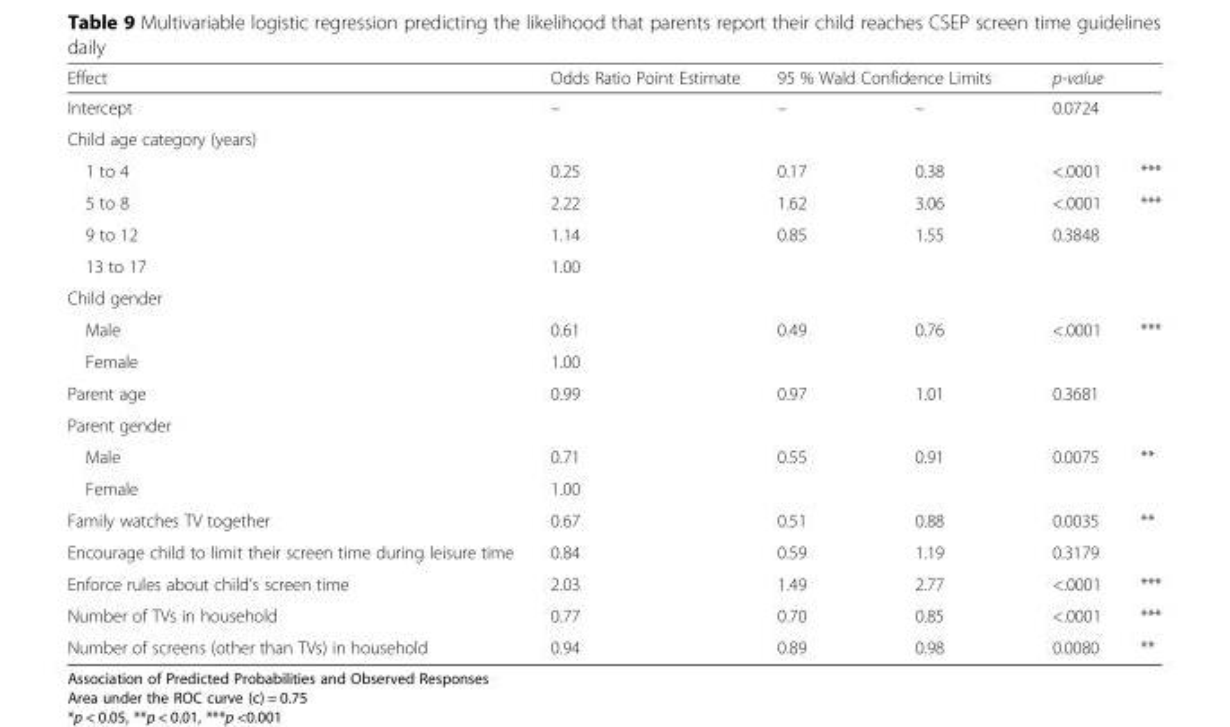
<table><thead><tr><td rowspan="2">Effect Intercept</td><td rowspan="2">Odds Ratio Point Estimate –</td><td colspan="2">95 % Wald Confidence Limits</td><td rowspan="2">p-value 0.0724</td><td rowspan="2"></td></tr><tr><td>–</td><td>–</td></tr></thead><tbody><tr><td colspan="6">Child age category (years)</td></tr><tr><td>1 to 4</td><td>0.25</td><td>0.17</td><td>0.38</td><td>&lt;.0001</td><td>***</td></tr><tr><td>5 to 8</td><td>2.22</td><td>1.62</td><td>3.06</td><td>&lt;.0001</td><td>***</td></tr><tr><td>9 to 12</td><td>1.14</td><td>0.85</td><td>1.55</td><td>0.3848</td><td></td></tr><tr><td>13 to 17</td><td>1.00</td><td></td><td></td><td></td><td></td></tr><tr><td colspan="6">Child gender</td></tr><tr><td>Male</td><td>0.61</td><td>0.49</td><td>0.76</td><td>&lt;.0001</td><td>***</td></tr><tr><td>Female</td><td>1.00</td><td></td><td></td><td></td><td></td></tr><tr><td>Parent age</td><td>0.99</td><td>0.97</td><td>1.01</td><td>0.3681</td><td></td></tr><tr><td colspan="6">Parent gender</td></tr><tr><td>Male</td><td>0.71</td><td>0.55</td><td>0.91</td><td>0.0075</td><td>**</td></tr><tr><td>Female</td><td>1.00</td><td></td><td></td><td></td><td></td></tr><tr><td>Family watches TV together</td><td>0.67</td><td>0.51</td><td>0.88</td><td>0.0035</td><td>**</td></tr><tr><td>Encourage child to limit their screen time during leisure time</td><td>0.84</td><td>0.59</td><td>1.19</td><td>0.3179</td><td></td></tr><tr><td>Enforce rules about child’s screen time</td><td>2.03</td><td>1.49</td><td>2.77</td><td>&lt;.0001</td><td>***</td></tr><tr><td>Number of TVs in household</td><td>0.77</td><td>0.70</td><td>0.85</td><td>&lt;.0001</td><td>***</td></tr><tr><td>Number of screens (other than TVs) in household</td><td>0.94</td><td>0.89</td><td>0.98</td><td>0.0080</td><td>**</td></tr></tbody></table>